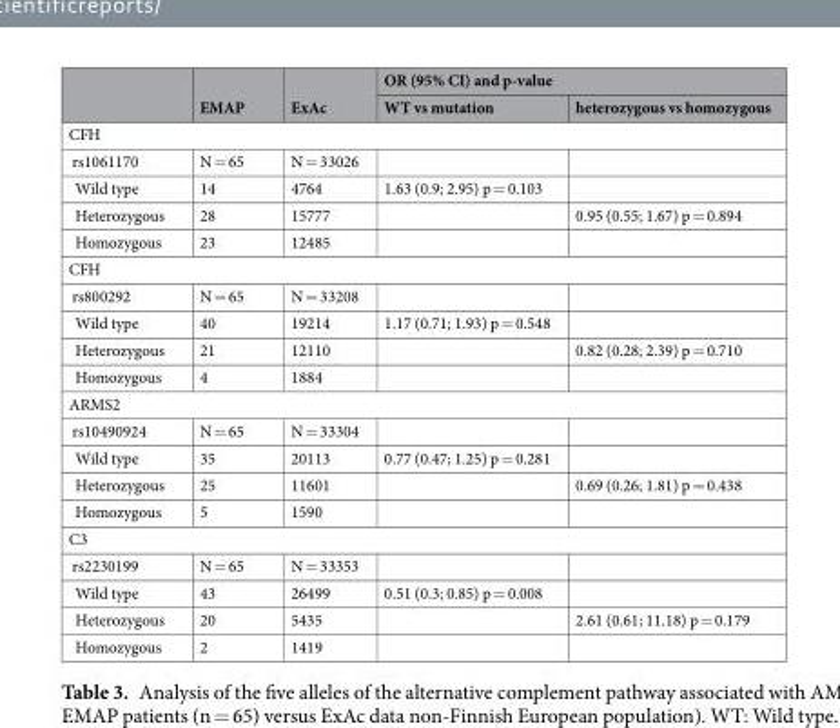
<table><thead><tr><td rowspan="2"></td><td rowspan="2">EMAP</td><td rowspan="2">ExAc</td><td colspan="2">OR (95% CI) and p-value</td></tr><tr><td>WT vs mutation</td><td>heterozygous vs homozygous</td></tr></thead><tbody><tr><td colspan="5">CFH</td></tr><tr><td>rs1061170</td><td>N = 65</td><td>N = 33026</td><td></td><td></td></tr><tr><td>Wild type</td><td>14</td><td>4764</td><td>1.63 (0.9; 2.95) p = 0.103</td><td></td></tr><tr><td>Heterozygous</td><td>28</td><td>15777</td><td></td><td>0.95 (0.55; 1.67) p = 0.894</td></tr><tr><td>Homozygous</td><td>23</td><td>12485</td><td></td><td></td></tr><tr><td colspan="5">CFH</td></tr><tr><td>rs800292</td><td>N = 65</td><td>N = 33208</td><td></td><td></td></tr><tr><td>Wild type</td><td>40</td><td>19214</td><td>1.17 (0.71; 1.93) p = 0.548</td><td></td></tr><tr><td>Heterozygous</td><td>21</td><td>12110</td><td></td><td>0.82 (0.28; 2.39) p = 0.710</td></tr><tr><td>Homozygous</td><td>4</td><td>1884</td><td></td><td></td></tr><tr><td colspan="5">ARMS2</td></tr><tr><td>rs10490924</td><td>N = 65</td><td>N = 33304</td><td></td><td></td></tr><tr><td>Wild type</td><td>35</td><td>20113</td><td>0.77 (0.47; 1.25) p = 0.281</td><td></td></tr><tr><td>Heterozygous</td><td>25</td><td>11601</td><td></td><td>0.69 (0.26; 1.81) p = 0.438</td></tr><tr><td>Homozygous</td><td>5</td><td>1590</td><td></td><td></td></tr><tr><td colspan="5">C3</td></tr><tr><td>rs2230199</td><td>N = 65</td><td>N = 33353</td><td></td><td></td></tr><tr><td>Wild type</td><td>43</td><td>26499</td><td>0.51 (0.3; 0.85) p = 0.008</td><td></td></tr><tr><td>Heterozygous</td><td>20</td><td>5435</td><td></td><td>2.61 (0.61; 11.18) p = 0.179</td></tr><tr><td>Homozygous</td><td>2</td><td>1419</td><td></td><td></td></tr></tbody></table>